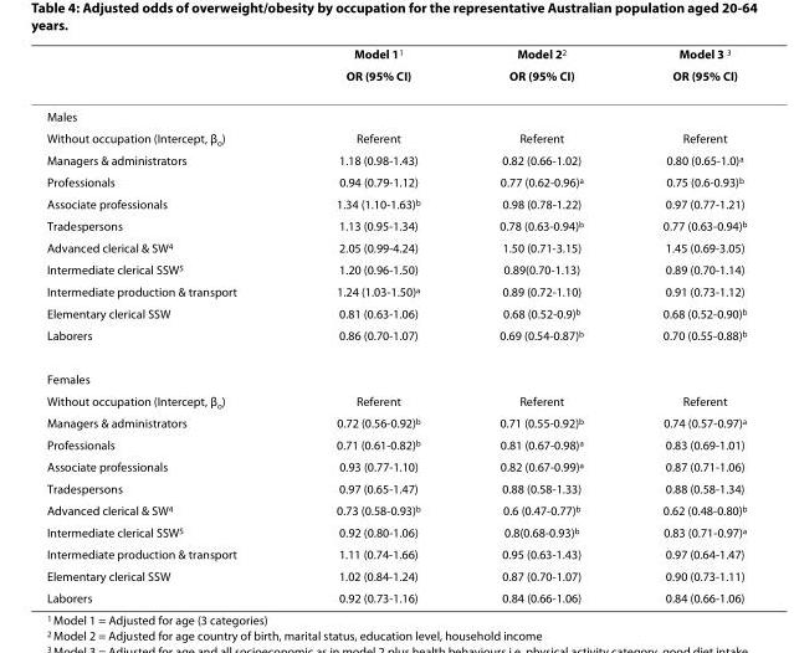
<table><thead><tr><td rowspan="2"></td><td rowspan="2">Model 1<sup>1</sup> OR (95% CI)</td><td rowspan="2">Model 2<sup>2</sup> OR (95% CI)</td><td rowspan="2">Model 3 <sup>3</sup> OR (95% CI)</td></tr><tr></tr></thead><tbody><tr><td colspan="4">Males</td></tr><tr><td>Without occupation (Intercept, β<sub>o</sub>)</td><td>Referent</td><td>Referent</td><td>Referent</td></tr><tr><td>Managers &amp; administrators</td><td>1.18 (0.98-1.43)</td><td>0.82 (0.66-1.02)</td><td>0.80 (0.65-1.0)<sup>a</sup></td></tr><tr><td>Professionals</td><td>0.94 (0.79-1.12)</td><td>0.77 (0.62-0.96)<sup>a</sup></td><td>0.75 (0.6-0.93)<sup>b</sup></td></tr><tr><td>Associate professionals</td><td>1.34 (1.10-1.63)<sup>b</sup></td><td>0.98 (0.78-1.22)</td><td>0.97 (0.77-1.21)</td></tr><tr><td>Tradespersons</td><td>1.13 (0.95-1.34)</td><td>0.78 (0.63-0.94)<sup>b</sup></td><td>0.77 (0.63-0.94)<sup>b</sup></td></tr><tr><td>Advanced clerical &amp; SW<sup>4</sup></td><td>2.05 (0.99-4.24)</td><td>1.50 (0.71-3.15)</td><td>1.45 (0.69-3.05)</td></tr><tr><td>Intermediate clerical SSW<sup>5</sup></td><td>1.20 (0.96-1.50)</td><td>0.89(0.70-1.13)</td><td>0.89 (0.70-1.14)</td></tr><tr><td>Intermediate production &amp; transport</td><td>1.24 (1.03-1.50)<sup>a</sup></td><td>0.89 (0.72-1.10)</td><td>0.91 (0.73-1.12)</td></tr><tr><td>Elementary clerical SSW</td><td>0.81 (0.63-1.06)</td><td>0.68 (0.52-0.9)<sup>b</sup></td><td>0.68 (0.52-0.90)<sup>b</sup></td></tr><tr><td>Laborers</td><td>0.86 (0.70-1.07)</td><td>0.69 (0.54-0.87)<sup>b</sup></td><td>0.70 (0.55-0.88)<sup>b</sup></td></tr><tr><td colspan="4">Females</td></tr><tr><td>Without occupation (Intercept, β<sub>o</sub>)</td><td>Referent</td><td>Referent</td><td>Referent</td></tr><tr><td>Managers &amp; administrators</td><td>0.72 (0.56-0.92)<sup>b</sup></td><td>0.71 (0.55-0.92)<sup>b</sup></td><td>0.74 (0.57-0.97)<sup>a</sup></td></tr><tr><td>Professionals</td><td>0.71 (0.61-0.82)<sup>b</sup></td><td>0.81 (0.67-0.98)<sup>a</sup></td><td>0.83 (0.69-1.01)</td></tr><tr><td>Associate professionals</td><td>0.93 (0.77-1.10)</td><td>0.82 (0.67-0.99)<sup>a</sup></td><td>0.87 (0.71-1.06)</td></tr><tr><td>Tradespersons</td><td>0.97 (0.65-1.47)</td><td>0.88 (0.58-1.33)</td><td>0.88 (0.58-1.34)</td></tr><tr><td>Advanced clerical &amp; SW<sup>4</sup></td><td>0.73 (0.58-0.93)<sup>b</sup></td><td>0.6 (0.47-0.77)<sup>b</sup></td><td>0.62 (0.48-0.80)<sup>b</sup></td></tr><tr><td>Intermediate clerical SSW<sup>5</sup></td><td>0.92 (0.80-1.06)</td><td>0.8(0.68-0.93)<sup>b</sup></td><td>0.83 (0.71-0.97)<sup>a</sup></td></tr><tr><td>Intermediate production &amp; transport</td><td>1.11 (0.74-1.66)</td><td>0.95 (0.63-1.43)</td><td>0.97 (0.64-1.47)</td></tr><tr><td>Elementary clerical SSW</td><td>1.02 (0.84-1.24)</td><td>0.87 (0.70-1.07)</td><td>0.90 (0.73-1.11)</td></tr><tr><td>Laborers</td><td>0.92 (0.73-1.16)</td><td>0.84 (0.66-1.06)</td><td>0.84 (0.66-1.06)</td></tr></tbody></table>